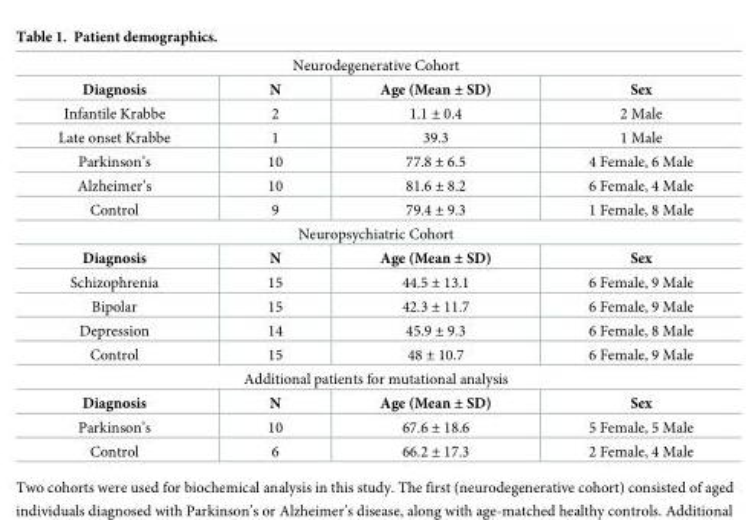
<table><tbody><tr><td colspan="4">Neurodegenerative Cohort</td></tr><tr><td>Diagnosis</td><td>N</td><td>Age (Mean ± SD)</td><td>Sex</td></tr><tr><td>Infantile Krabbe</td><td>2</td><td>1.1 ± 0.4</td><td>2 Male</td></tr><tr><td>Late onset Krabbe</td><td>1</td><td>39.3</td><td>1 Male</td></tr><tr><td>Parkinson’s</td><td>10</td><td>77.8 ± 6.5</td><td>4 Female, 6 Male</td></tr><tr><td>Alzheimer’s</td><td>10</td><td>81.6 ± 8.2</td><td>6 Female, 4 Male</td></tr><tr><td>Control</td><td>9</td><td>79.4 ± 9.3</td><td>1 Female, 8 Male</td></tr><tr><td colspan="4">Neuropsychiatric Cohort</td></tr><tr><td>Diagnosis</td><td>N</td><td>Age (Mean ± SD)</td><td>Sex</td></tr><tr><td>Schizophrenia</td><td>15</td><td>44.5 ± 13.1</td><td>6 Female, 9 Male</td></tr><tr><td>Bipolar</td><td>15</td><td>42.3 ± 11.7</td><td>6 Female, 9 Male</td></tr><tr><td>Depression</td><td>14</td><td>45.9 ± 9.3</td><td>6 Female, 8 Male</td></tr><tr><td>Control</td><td>15</td><td>48 ± 10.7</td><td>6 Female, 9 Male</td></tr><tr><td colspan="4">Additional patients for mutational analysis</td></tr><tr><td>Diagnosis</td><td>N</td><td>Age (Mean ± SD)</td><td>Sex</td></tr><tr><td>Parkinson’s</td><td>10</td><td>67.6 ± 18.6</td><td>5 Female, 5 Male</td></tr><tr><td>Control</td><td>6</td><td>66.2 ± 17.3</td><td>2 Female, 4 Male</td></tr></tbody></table>